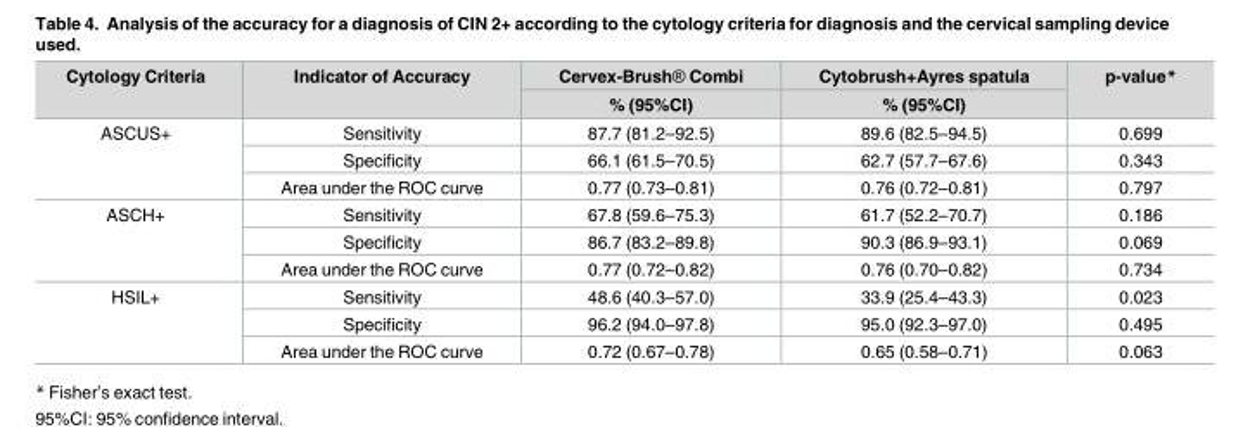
<table><thead><tr><td rowspan="2">Cytology Criteria</td><td rowspan="2">Indicator of Accuracy</td><td rowspan="2">Cervex-Brush® Combi % (95%CI)</td><td rowspan="2">Cytobrush+Ayres spatula % (95%CI)</td><td rowspan="2">p-value*</td></tr><tr></tr></thead><tbody><tr><td rowspan="3">ASCUS+</td><td>Sensitivity</td><td>87.7 (81.2–92.5)</td><td>89.6 (82.5–94.5)</td><td>0.699</td></tr><tr><td>Specificity</td><td>66.1 (61.5–70.5)</td><td>62.7 (57.7–67.6)</td><td>0.343</td></tr><tr><td>Area under the ROC curve</td><td>0.77 (0.73–0.81)</td><td>0.76 (0.72–0.81)</td><td>0.797</td></tr><tr><td rowspan="3">ASCH+</td><td>Sensitivity</td><td>67.8 (59.6–75.3)</td><td>61.7 (52.2–70.7)</td><td>0.186</td></tr><tr><td>Specificity</td><td>86.7 (83.2–89.8)</td><td>90.3 (86.9–93.1)</td><td>0.069</td></tr><tr><td>Area under the ROC curve</td><td>0.77 (0.72–0.82)</td><td>0.76 (0.70–0.82)</td><td>0.734</td></tr><tr><td rowspan="3">HSIL+</td><td>Sensitivity</td><td>48.6 (40.3–57.0)</td><td>33.9 (25.4–43.3)</td><td>0.023</td></tr><tr><td>Specificity</td><td>96.2 (94.0–97.8)</td><td>95.0 (92.3–97.0)</td><td>0.495</td></tr><tr><td>Area under the ROC curve</td><td>0.72 (0.67–0.78)</td><td>0.65 (0.58–0.71)</td><td>0.063</td></tr></tbody></table>